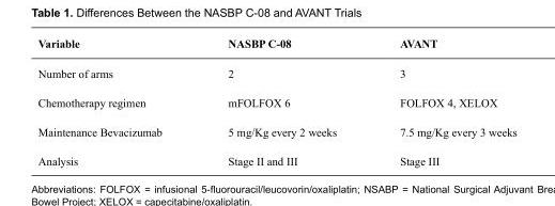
<table><thead><tr><td>Variable</td><td>NASBP C-08</td><td>AVANT</td></tr></thead><tbody><tr><td>Number of arms</td><td>2</td><td>3</td></tr><tr><td>Chemotherapy regimen</td><td>mFOLFOX 6</td><td>FOLFOX 4, XELOX</td></tr><tr><td>Maintenance Bevacizumab</td><td>5 mg/Kg every 2 weeks</td><td>7.5 mg/Kg every 3 weeks</td></tr><tr><td>Analysis</td><td>Stage II and III</td><td>Stage III</td></tr></tbody></table>